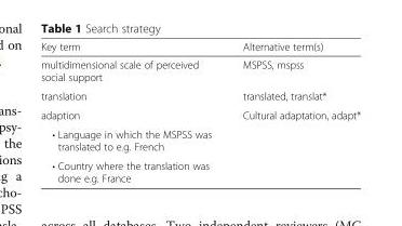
<table><thead><tr><td>Key term</td><td>Alternative term(s)</td></tr></thead><tbody><tr><td>multidimensional scale of perceived social support</td><td>MSPSS, mspss</td></tr><tr><td>translation</td><td>translated, translat*</td></tr><tr><td>adaption</td><td>Cultural adaptation, adapt*</td></tr><tr><td colspan="2">• Language in which the MSPSS was translated to e.g. French</td></tr><tr><td>• Country where the translation was done e.g. France</td><td></td></tr></tbody></table>